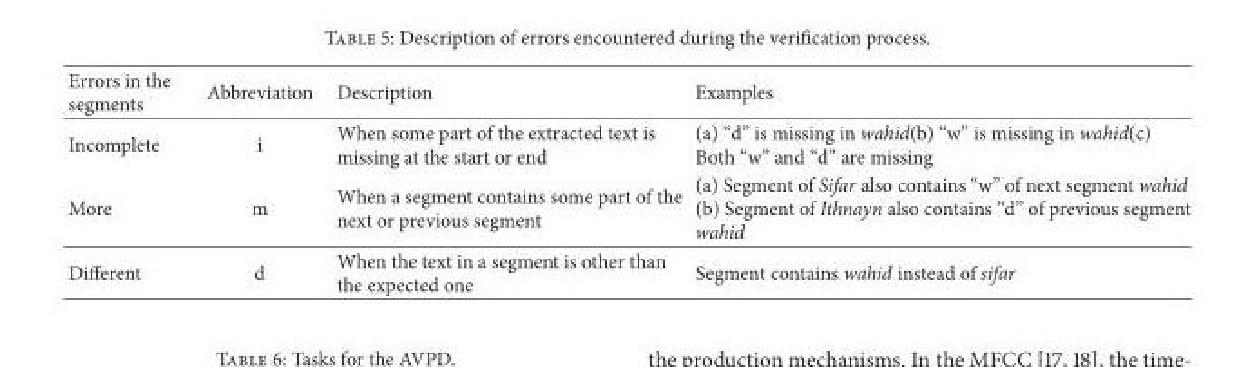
<table><thead><tr><td>Errors in the segments</td><td>Abbreviation</td><td>Description</td><td>Examples</td></tr></thead><tbody><tr><td>Incomplete</td><td>i</td><td>When some part of the extracted text is missing at the start or end</td><td>(a) “d” is missing in wahid(b) “w” is missing in wahid(c) Both “w” and “d” are missing</td></tr><tr><td>More</td><td>m</td><td>When a segment contains some part of the next or previous segment</td><td>(a) Segment of Sifar also contains “w” of next segment wahid (b) Segment of Ithnayn also contains “d” of previous segment wahid</td></tr><tr><td>Different</td><td>d</td><td>When the text in a segment is other than the expected one</td><td>Segment contains wahid instead of sifar</td></tr></tbody></table>